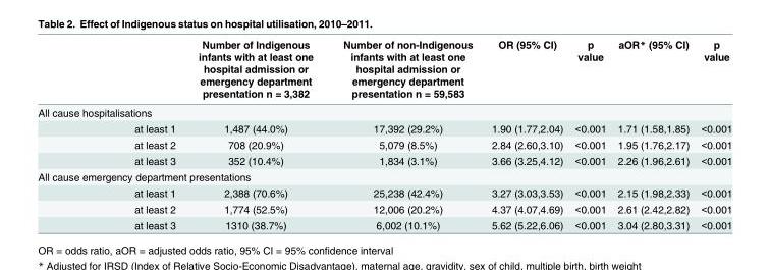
<table><thead><tr><td></td><td>Number of Indigenous infants with at least one hospital admission or emergency department presentation n = 3,382</td><td>Number of non-Indigenous infants with at least one hospital admission or emergency department presentation n = 59,583</td><td>OR (95% CI)</td><td>p value</td><td>aOR* (95% CI)</td><td>p value</td></tr></thead><tbody><tr><td colspan="7">All cause hospitalisations</td></tr><tr><td>at least 1</td><td>1,487 (44.0%)</td><td>17,392 (29.2%)</td><td>1.90 (1.77,2.04)</td><td>&lt;0.001</td><td>1.71 (1.58,1.85)</td><td>&lt;0.001</td></tr><tr><td>at least 2</td><td>708 (20.9%)</td><td>5,079 (8.5%)</td><td>2.84 (2.60,3.10)</td><td>&lt;0.001</td><td>1.95 (1.76,2.17)</td><td>&lt;0.001</td></tr><tr><td>at least 3</td><td>352 (10.4%)</td><td>1,834 (3.1%)</td><td>3.66 (3.25,4.12)</td><td>&lt;0.001</td><td>2.26 (1.96,2.61)</td><td>&lt;0.001</td></tr><tr><td colspan="7">All cause emergency department presentations</td></tr><tr><td>at least 1</td><td>2,388 (70.6%)</td><td>25,238 (42.4%)</td><td>3.27 (3.03,3.53)</td><td>&lt;0.001</td><td>2.15 (1.98,2.33)</td><td>&lt;0.001</td></tr><tr><td>at least 2</td><td>1,774 (52.5%)</td><td>12,006 (20.2%)</td><td>4.37 (4.07,4.69)</td><td>&lt;0.001</td><td>2.61 (2.42,2.82)</td><td>&lt;0.001</td></tr><tr><td>at least 3</td><td>1310 (38.7%)</td><td>6,002 (10.1%)</td><td>5.62 (5.22,6.06)</td><td>&lt;0.001</td><td>3.04 (2.80,3.31)</td><td>&lt;0.001</td></tr></tbody></table>